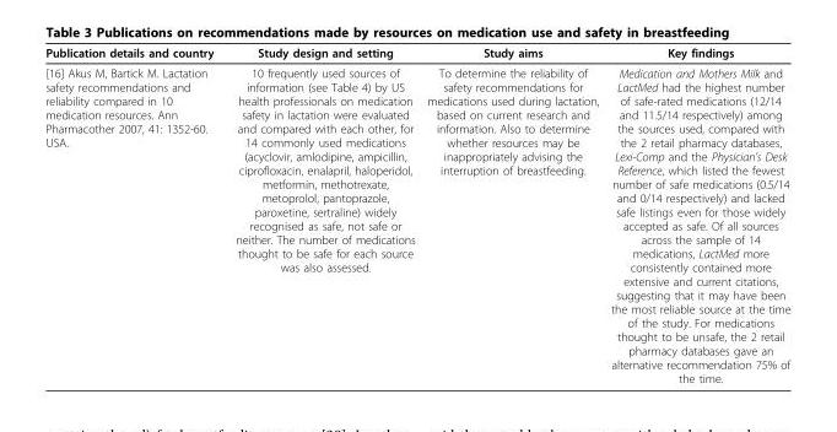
<table><thead><tr><td>Publication details and country</td><td>Study design and setting</td><td>Study aims</td><td>Key findings</td></tr></thead><tbody><tr><td>[16] Akus M, Bartick M. Lactation safety recommendations and reliability compared in 10 medication resources. Ann Pharmacother 2007, 41: 1352-60. USA.</td><td>10 frequently used sources of information (see Table 4) by US health professionals on medication safety in lactation were evaluated and compared with each other, for 14 commonly used medications (acyclovir, amlodipine, ampicillin, ciprofloxacin, enalapril, haloperidol, metformin, methotrexate, metoprolol, pantoprazole, paroxetine, sertraline) widely recognised as safe, not safe or neither. The number of medications thought to be safe for each source was also assessed.</td><td>To determine the reliability of safety recommendations for medications used during lactation, based on current research and information. Also to determine whether resources may be inappropriately advising the interruption of breastfeeding.</td><td>Medication and Mothers Milk and LactMed had the highest number of safe-rated medications (12/14 and 11.5/14 respectively) among the sources used, compared with the 2 retail pharmacy databases, Lexi-Comp and the Physician’s Desk Reference, which listed the fewest number of safe medications (0.5/14 and 0/14 respectively) and lacked safe listings even for those widely accepted as safe. Of all sources across the sample of 14 medications, LactMed more consistently contained more extensive and current citations, suggesting that it may have been the most reliable source at the time of the study. For medications thought to be unsafe, the 2 retail pharmacy databases gave an alternative recommendation 75% of the time.</td></tr></tbody></table>